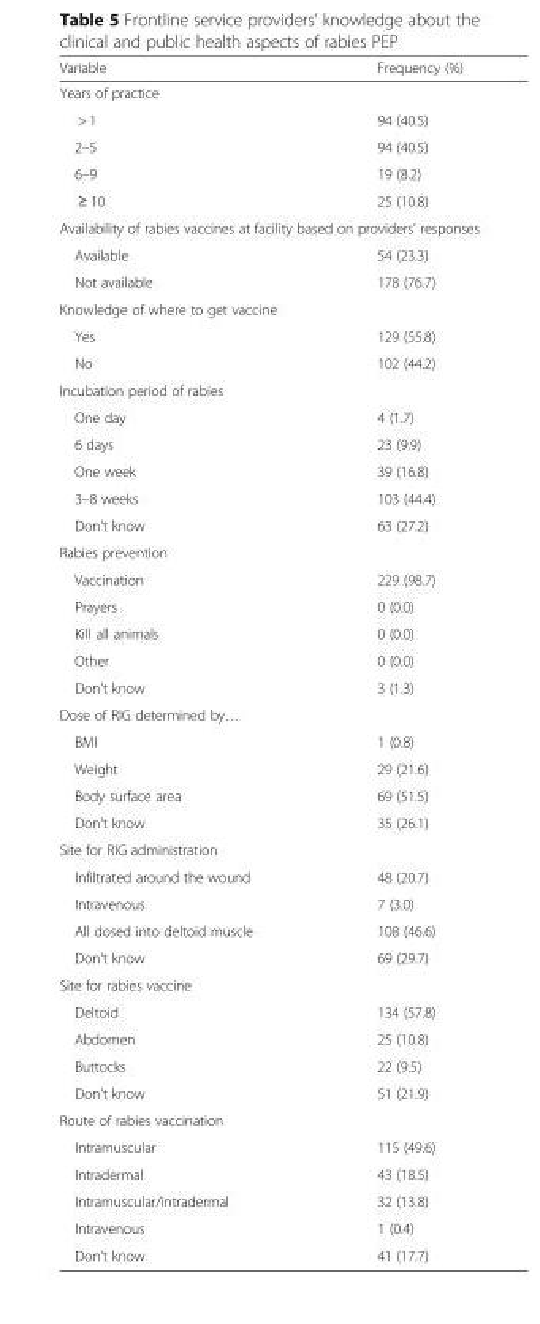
<table><thead><tr><td>Variable</td><td>Frequency (%)</td></tr></thead><tbody><tr><td colspan="2">Years of practice</td></tr><tr><td>&gt; 1</td><td>94 (40.5)</td></tr><tr><td>2–5</td><td>94 (40.5)</td></tr><tr><td>6–9</td><td>19 (8.2)</td></tr><tr><td>≥ 10</td><td>25 (10.8)</td></tr><tr><td colspan="2">Availability of rabies vaccines at facility based on providers’ responses</td></tr><tr><td>Available</td><td>54 (23.3)</td></tr><tr><td>Not available</td><td>178 (76.7)</td></tr><tr><td colspan="2">Knowledge of where to get vaccine</td></tr><tr><td>Yes</td><td>129 (55.8)</td></tr><tr><td>No</td><td>102 (44.2)</td></tr><tr><td colspan="2">Incubation period of rabies</td></tr><tr><td>One day</td><td>4 (1.7)</td></tr><tr><td>6 days</td><td>23 (9.9)</td></tr><tr><td>One week</td><td>39 (16.8)</td></tr><tr><td>3–8 weeks</td><td>103 (44.4)</td></tr><tr><td>Don’t know</td><td>63 (27.2)</td></tr><tr><td colspan="2">Rabies prevention</td></tr><tr><td>Vaccination</td><td>229 (98.7)</td></tr><tr><td>Prayers</td><td>0 (0.0)</td></tr><tr><td>Kill all animals</td><td>0 (0.0)</td></tr><tr><td>Other</td><td>0 (0.0)</td></tr><tr><td>Don’t know</td><td>3 (1.3)</td></tr><tr><td colspan="2">Dose of RIG determined by…</td></tr><tr><td>BMI</td><td>1 (0.8)</td></tr><tr><td>Weight</td><td>29 (21.6)</td></tr><tr><td>Body surface area</td><td>69 (51.5)</td></tr><tr><td>Don’t know</td><td>35 (26.1)</td></tr><tr><td colspan="2">Site for RIG administration</td></tr><tr><td>Infiltrated around the wound</td><td>48 (20.7)</td></tr><tr><td>Intravenous</td><td>7 (3.0)</td></tr><tr><td>All dosed into deltoid muscle</td><td>108 (46.6)</td></tr><tr><td>Don’t know</td><td>69 (29.7)</td></tr><tr><td colspan="2">Site for rabies vaccine</td></tr><tr><td>Deltoid</td><td>134 (57.8)</td></tr><tr><td>Abdomen</td><td>25 (10.8)</td></tr><tr><td>Buttocks</td><td>22 (9.5)</td></tr><tr><td>Don’t know</td><td>51 (21.9)</td></tr><tr><td colspan="2">Route of rabies vaccination</td></tr><tr><td>Intramuscular</td><td>115 (49.6)</td></tr><tr><td>Intradermal</td><td>43 (18.5)</td></tr><tr><td>Intramuscular/intradermal</td><td>32 (13.8)</td></tr><tr><td>Intravenous</td><td>1 (0.4)</td></tr><tr><td>Don’t know</td><td>41 (17.7)</td></tr></tbody></table>